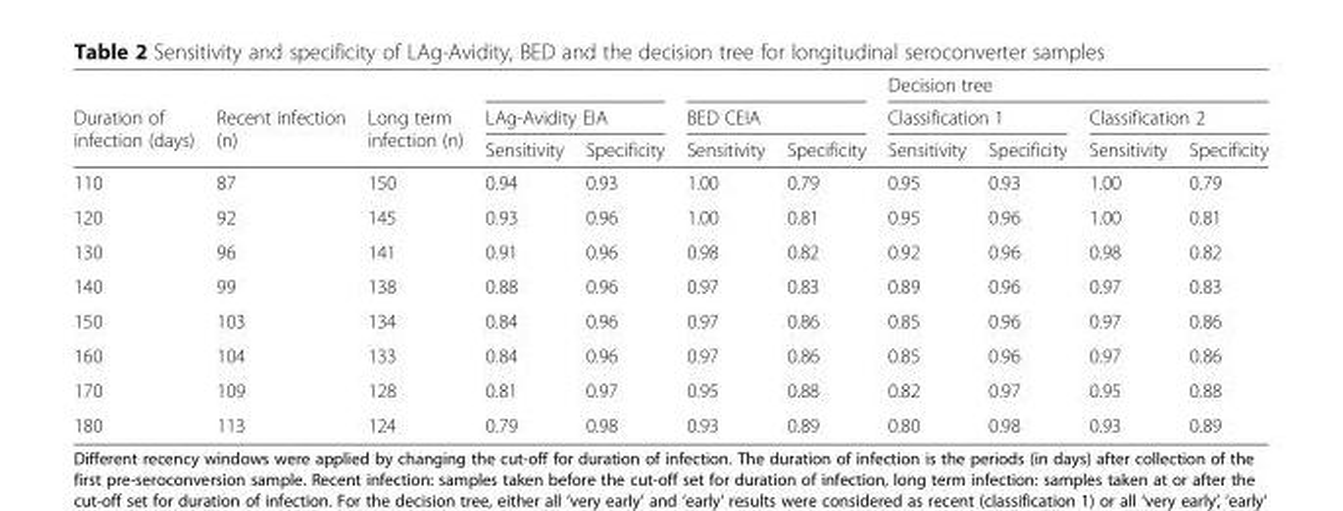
<table><thead><tr><td rowspan="3">Duration of infection (days)</td><td rowspan="3">Recent infection (n)</td><td rowspan="3">Long term infection (n)</td><td></td><td></td><td></td><td></td><td colspan="4">Decision tree</td></tr><tr><td colspan="2">LAg-Avidity EIA</td><td colspan="2">BED CEIA</td><td colspan="2">Classification 1</td><td colspan="2">Classification 2</td></tr><tr><td>Sensitivity</td><td>Specificity</td><td>Sensitivity</td><td>Specificity</td><td>Sensitivity</td><td>Specificity</td><td>Sensitivity</td><td>Specificity</td></tr></thead><tbody><tr><td>110</td><td>87</td><td>150</td><td>0.94</td><td>0.93</td><td>1.00</td><td>0.79</td><td>0.95</td><td>0.93</td><td>1.00</td><td>0.79</td></tr><tr><td>120</td><td>92</td><td>145</td><td>0.93</td><td>0.96</td><td>1.00</td><td>0.81</td><td>0.95</td><td>0.96</td><td>1.00</td><td>0.81</td></tr><tr><td>130</td><td>96</td><td>141</td><td>0.91</td><td>0.96</td><td>0.98</td><td>0.82</td><td>0.92</td><td>0.96</td><td>0.98</td><td>0.82</td></tr><tr><td>140</td><td>99</td><td>138</td><td>0.88</td><td>0.96</td><td>0.97</td><td>0.83</td><td>0.89</td><td>0.96</td><td>0.97</td><td>0.83</td></tr><tr><td>150</td><td>103</td><td>134</td><td>0.84</td><td>0.96</td><td>0.97</td><td>0.86</td><td>0.85</td><td>0.96</td><td>0.97</td><td>0.86</td></tr><tr><td>160</td><td>104</td><td>133</td><td>0.84</td><td>0.96</td><td>0.97</td><td>0.86</td><td>0.85</td><td>0.96</td><td>0.97</td><td>0.86</td></tr><tr><td>170</td><td>109</td><td>128</td><td>0.81</td><td>0.97</td><td>0.95</td><td>0.88</td><td>0.82</td><td>0.97</td><td>0.95</td><td>0.88</td></tr><tr><td>180</td><td>113</td><td>124</td><td>0.79</td><td>0.98</td><td>0.93</td><td>0.89</td><td>0.80</td><td>0.98</td><td>0.93</td><td>0.89</td></tr></tbody></table>